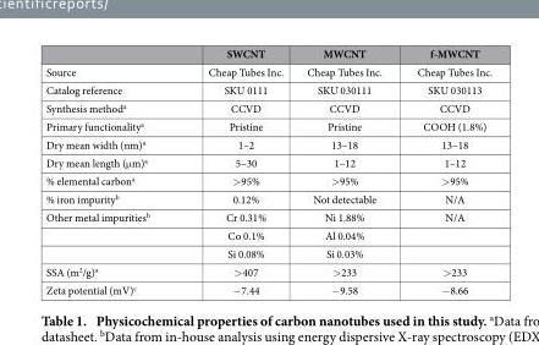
<table><thead><tr><td></td><td>SWCNT</td><td>MWCNT</td><td>f-MWCNT</td></tr></thead><tbody><tr><td>Source</td><td>Cheap Tubes Inc.</td><td>Cheap Tubes Inc.</td><td>Cheap Tubes Inc.</td></tr><tr><td>Catalog reference</td><td>SKU 0111</td><td>SKU 030111</td><td>SKU 030113</td></tr><tr><td>Synthesis method<sup>a</sup></td><td>CCVD</td><td>CCVD</td><td>CCVD</td></tr><tr><td>Primary functionality<sup>a</sup></td><td>Pristine</td><td>Pristine</td><td>COOH (1.8%)</td></tr><tr><td>Dry mean width (nm)<sup>a</sup></td><td>1–2</td><td>13–18</td><td>13–18</td></tr><tr><td>Dry mean length (μ m)<sup>a</sup></td><td>5–30</td><td>1–12</td><td>1–12</td></tr><tr><td>% elemental carbon<sup>a</sup></td><td>&gt; 95%</td><td>&gt; 95%</td><td>&gt; 95%</td></tr><tr><td>% iron impurity<sup>b</sup></td><td>0.12%</td><td>Not detectable</td><td>N/A</td></tr><tr><td rowspan="3">Other metal impurities<sup>b</sup></td><td>Cr 0.31%</td><td>Ni 1.88%</td><td>N/A</td></tr><tr><td>Co 0.1%</td><td>Al 0.04%</td><td></td></tr><tr><td>Si 0.08%</td><td>Si 0.03%</td><td></td></tr><tr><td>SSA (m<sup>2</sup>/g)<sup>a</sup></td><td>&gt; 407</td><td>&gt; 233</td><td>&gt; 233</td></tr><tr><td>Zeta potential (mV)<sup>c</sup></td><td>− 7.44</td><td>− 9.58</td><td>− 8.66</td></tr></tbody></table>